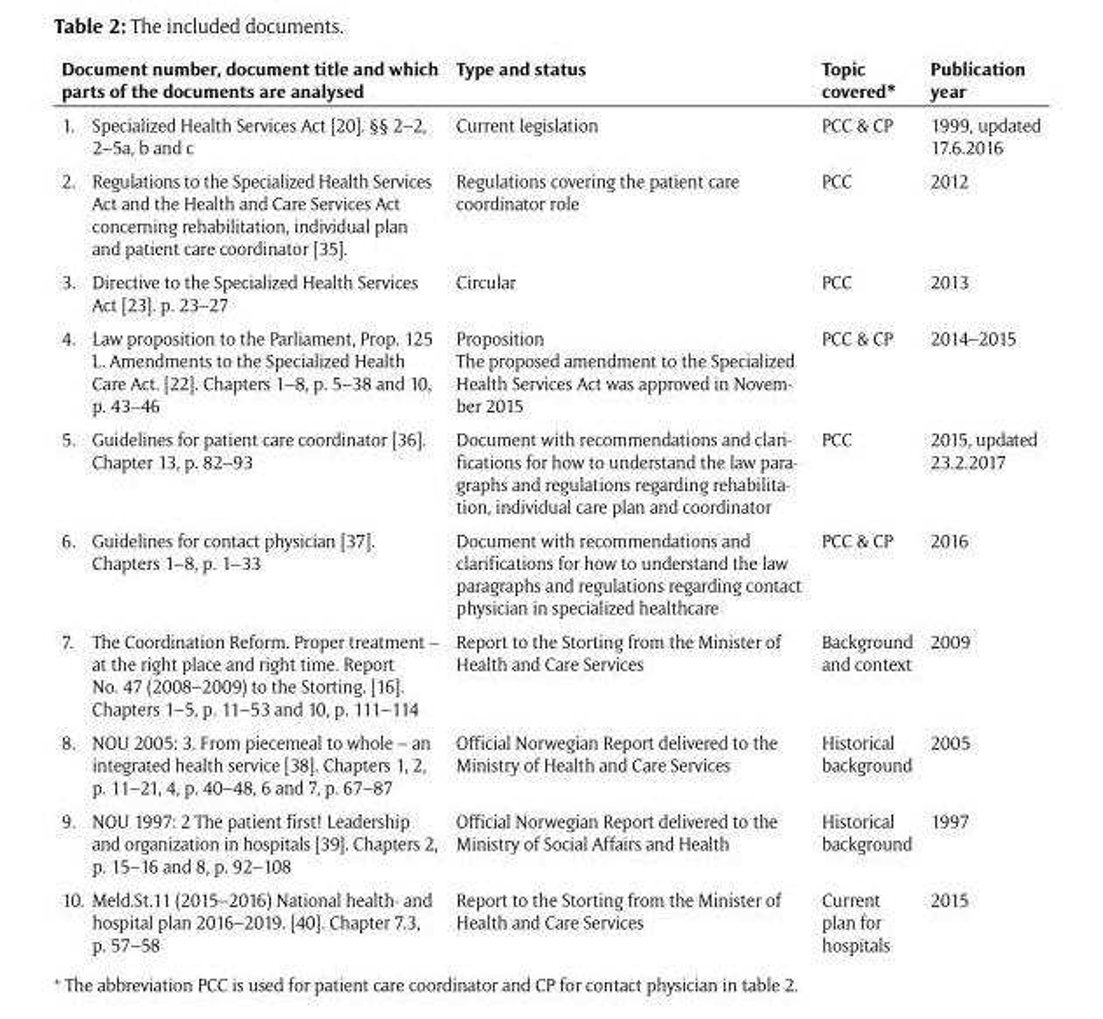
<table><thead><tr><td colspan="2">Document number, document title and which parts of the documents are analysed</td><td rowspan="2">Type and status Current legislation</td><td rowspan="2">Topic covered* PCC &amp; CP</td><td rowspan="2">Publication year 1999, updated 17.6.2016</td></tr><tr><td>1.</td><td>Specialized Health Services Act [20]. §§ 2–2, 2–5a, b and c</td></tr></thead><tbody><tr><td>2.</td><td>Regulations to the Specialized Health Services Act and the Health and Care Services Act concerning rehabilitation, individual plan and patient care coordinator [35].</td><td>Regulations covering the patient care coordinator role</td><td>PCC</td><td>2012</td></tr><tr><td>3.</td><td>Directive to the Specialized Health Services Act [23]. p. 23–27</td><td>Circular</td><td>PCC</td><td>2013</td></tr><tr><td>4.</td><td>Law proposition to the Parliament, Prop. 125 L. Amendments to the Specialized Health Care Act. [22]. Chapters 1–8, p. 5–38 and 10, p. 43–46</td><td>Proposition The proposed amendment to the Specialized Health Services Act was approved in Novem- ber 2015</td><td>PCC &amp; CP</td><td>2014–2015</td></tr><tr><td>5.</td><td>Guidelines for patient care coordinator [36]. Chapter 13, p. 82–93</td><td>Document with recommendations and clari- fications for how to understand the law para- graphs and regulations regarding rehabilita- tion, individual care plan and coordinator</td><td>PCC</td><td>2015, updated 23.2.2017</td></tr><tr><td>6.</td><td>Guidelines for contact physician [37]. Chapters 1–8, p. 1–33</td><td>Document with recommendations and clarifications for how to understand the law paragraphs and regulations regarding contact physician in specialized healthcare</td><td>PCC &amp; CP</td><td>2016</td></tr><tr><td>7.</td><td>The Coordination Reform. Proper treatment – at the right place and right time. Report No. 47 (2008–2009) to the Storting. [16]. Chapters 1–5, p. 11–53 and 10, p. 111–114</td><td>Report to the Storting from the Minister of Health and Care Services</td><td>Background and context</td><td>2009</td></tr><tr><td>8.</td><td>NOU 2005: 3. From piecemeal to whole – an integrated health service [38]. Chapters 1, 2, p. 11–21, 4, p. 40–48, 6 and 7, p. 67–87</td><td>Official Norwegian Report delivered to the Ministry of Health and Care Services</td><td>Historical background</td><td>2005</td></tr><tr><td>9.</td><td>NOU 1997: 2 The patient first! Leadership and organization in hospitals [39]. Chapters 2, p. 15–16 and 8, p. 92–108</td><td>Official Norwegian Report delivered to the Ministry of Social Affairs and Health</td><td>Historical background</td><td>1997</td></tr><tr><td>10.</td><td>Meld.St.11 (2015–2016) National health- and hospital plan 2016–2019. [40]. Chapter 7.3, p. 57–58</td><td>Report to the Storting from the Minister of Health and Care Services</td><td>Current plan for hospitals</td><td>2015</td></tr></tbody></table>